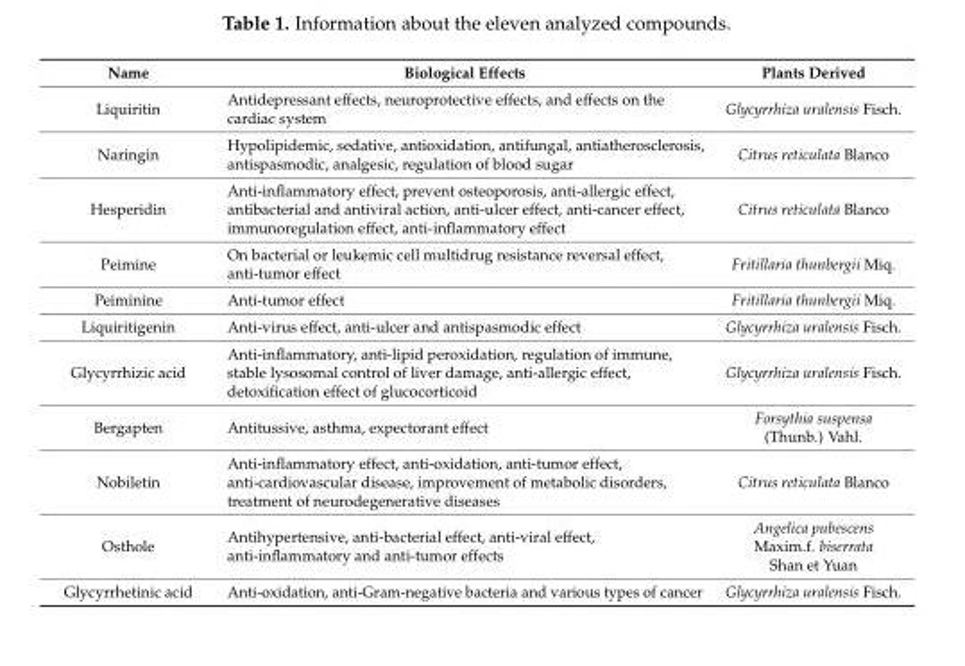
<table><thead><tr><td>Name</td><td>Biological Effects</td><td>Plants Derived</td></tr></thead><tbody><tr><td>Liquiritin</td><td>Antidepressant effects, neuroprotective effects, and effects on the cardiac system</td><td>Glycyrrhiza uralensis Fisch.</td></tr><tr><td>Naringin</td><td>Hypolipidemic, sedative, antioxidation, antifungal, antiatherosclerosis, antispasmodic, analgesic, regulation of blood sugar</td><td>Citrus reticulata Blanco</td></tr><tr><td>Hesperidin</td><td>Anti-inflammatory effect, prevent osteoporosis, anti-allergic effect, antibacterial and antiviral action, anti-ulcer effect, anti-cancer effect, immunoregulation effect, anti-inflammatory effect</td><td>Citrus reticulata Blanco</td></tr><tr><td>Peimine</td><td>On bacterial or leukemic cell multidrug resistance reversal effect, anti-tumor effect</td><td>Fritillaria thunbergii Miq.</td></tr><tr><td>Peiminine</td><td>Anti-tumor effect</td><td>Fritillaria thunbergii Miq.</td></tr><tr><td>Liquiritigenin</td><td>Anti-virus effect, anti-ulcer and antispasmodic effect</td><td>Glycyrrhiza uralensis Fisch.</td></tr><tr><td>Glycyrrhizic acid</td><td>Anti-inflammatory, anti-lipid peroxidation, regulation of immune, stable lysosomal control of liver damage, anti-allergic effect, detoxification effect of glucocorticoid</td><td>Glycyrrhiza uralensis Fisch.</td></tr><tr><td>Bergapten</td><td>Antitussive, asthma, expectorant effect</td><td>Forsythia suspensa (Thunb.) Vahl.</td></tr><tr><td>Nobiletin</td><td>Anti-inflammatory effect, anti-oxidation, anti-tumor effect, anti-cardiovascular disease, improvement of metabolic disorders, treatment of neurodegenerative diseases</td><td>Citrus reticulata Blanco</td></tr><tr><td>Osthole</td><td>Antihypertensive, anti-bacterial effect, anti-viral effect, anti-inflammatory and anti-tumor effects</td><td>Angelica pubescens Maxim.f. biserrata Shan et Yuan</td></tr><tr><td>Glycyrrhetinic acid</td><td>Anti-oxidation, anti-Gram-negative bacteria and various types of cancer</td><td>Glycyrrhiza uralensis Fisch.</td></tr></tbody></table>